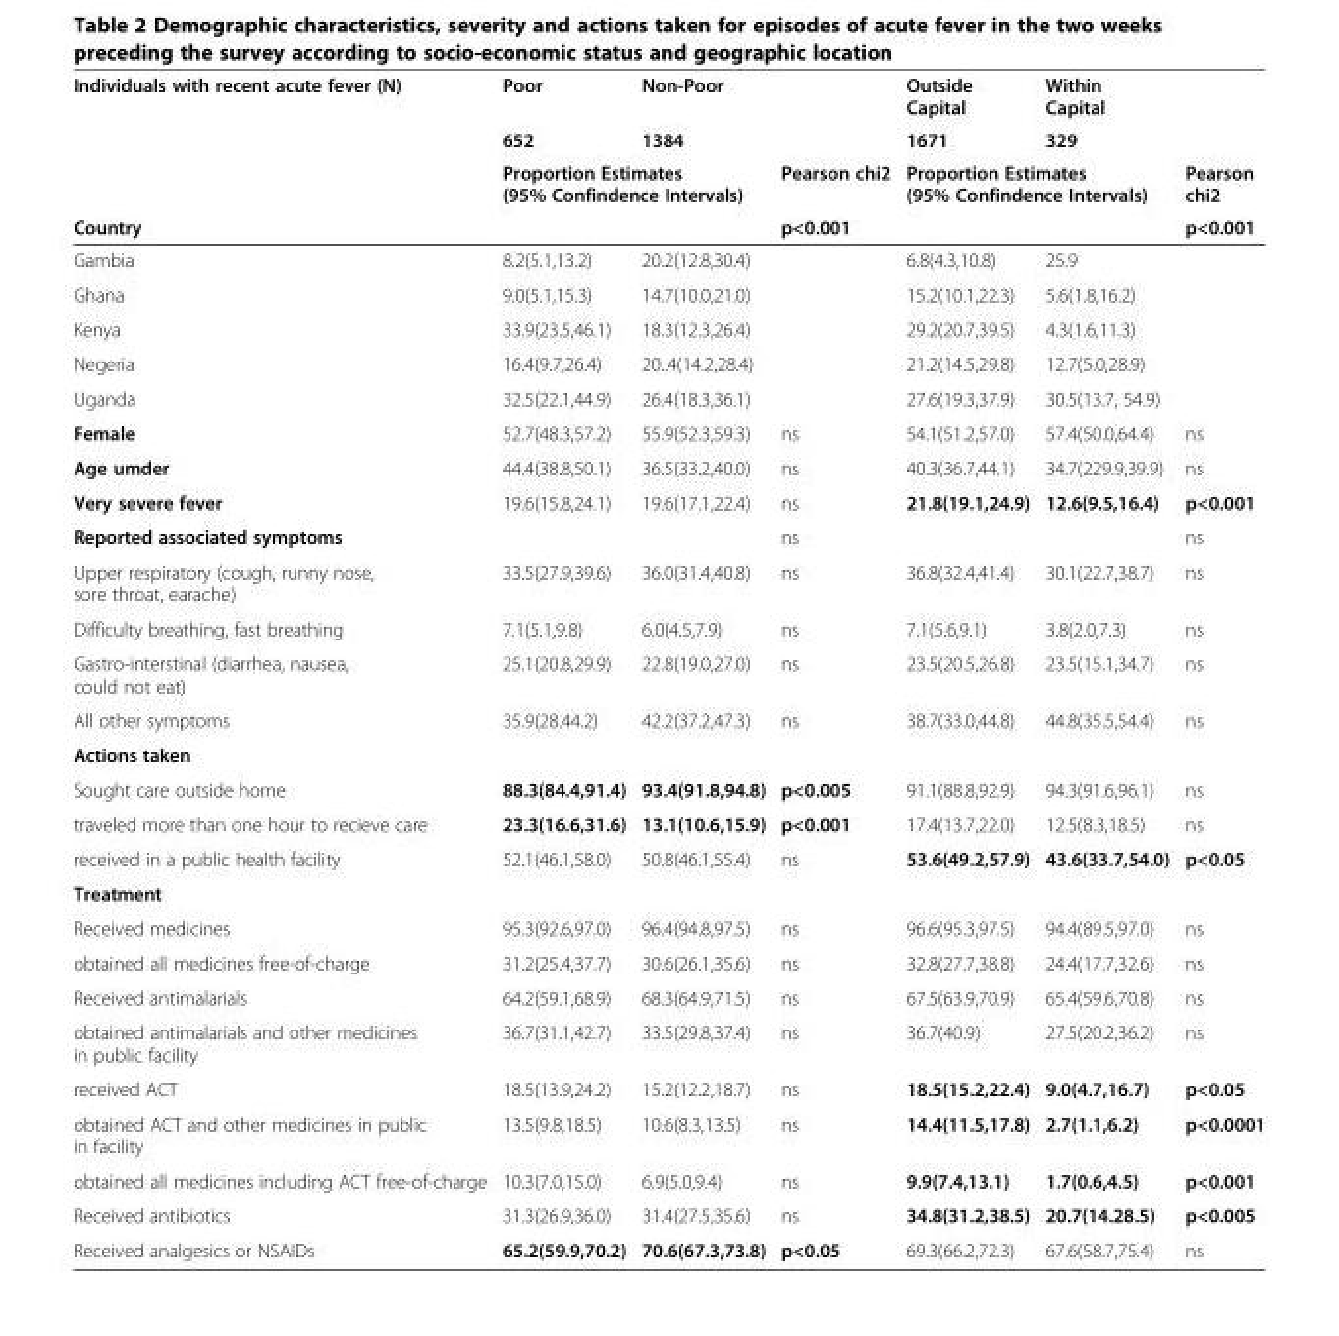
<table><thead><tr><td rowspan="4">Individuals with recent acute fever (N) Country</td><td rowspan="2">Poor 652</td><td rowspan="2">Non-Poor 1384</td><td rowspan="4">Pearson chi2 p&lt;0.001</td><td rowspan="2">Outside Capital 1671</td><td rowspan="2">Within Capital 329</td><td rowspan="4">Pearson chi2 p&lt;0.001</td></tr><tr></tr><tr><td colspan="2">Proportion Estimates (95% Confindence Intervals)</td><td colspan="2">Proportion Estimates (95% Confindence Intervals)</td></tr><tr><td></td><td></td><td></td><td></td></tr></thead><tbody><tr><td>Gambia</td><td>8.2(5.1,13.2)</td><td>20.2(12.8,30.4)</td><td></td><td>6.8(4.3,10.8)</td><td>25.9</td><td></td></tr><tr><td>Ghana</td><td>9.0(5.1,15.3)</td><td>14.7(10.0,21.0)</td><td></td><td>15.2(10.1,22.3)</td><td>5.6(1.8,16.2)</td><td></td></tr><tr><td>Kenya</td><td>33.9(23.5,46.1)</td><td>18.3(12.3,26.4)</td><td></td><td>29.2(20.7,39.5)</td><td>4.3(1.6,11.3)</td><td></td></tr><tr><td>Negeria</td><td>16.4(9.7,26.4)</td><td>20..4(14.2,28.4)</td><td></td><td>21.2(14.5,29.8)</td><td>12.7(5.0,28.9)</td><td></td></tr><tr><td>Uganda</td><td>32.5(22.1,44.9)</td><td>26.4(18.3,36.1)</td><td></td><td>27.6(19.3,37.9)</td><td>30.5(13.7, 54.9)</td><td></td></tr><tr><td>Female</td><td>52.7(48.3,57.2)</td><td>55.9(52.3,59.3)</td><td>ns</td><td>54.1(51.2,57.0)</td><td>57.4(50.0,64.4)</td><td>ns</td></tr><tr><td>Age umder</td><td>44.4(38.8,50.1)</td><td>36.5(33.2,40.0)</td><td>ns</td><td>40.3(36.7,44.1)</td><td>34.7(229.9,39.9)</td><td>ns</td></tr><tr><td>Very severe fever</td><td>19.6(15.8,24.1)</td><td>19.6(17.1,22.4)</td><td>ns</td><td>21.8(19.1,24.9)</td><td>12.6(9.5,16.4)</td><td>p&lt;0.001</td></tr><tr><td>Reported associated symptoms</td><td></td><td></td><td>ns</td><td></td><td></td><td>ns</td></tr><tr><td>Upper respiratory (cough, runny nose, sore throat, earache)</td><td>33.5(27.9,39.6)</td><td>36.0(31.4,40.8)</td><td>ns</td><td>36.8(32.4,41.4)</td><td>30.1(22.7,38.7)</td><td>ns</td></tr><tr><td>Difficulty breathing, fast breathing</td><td>7.1(5.1,9.8)</td><td>6.0(4.5,7.9)</td><td>ns</td><td>7.1(5.6,9.1)</td><td>3.8(2.0,7.3)</td><td>ns</td></tr><tr><td>Gastro-interstinal (diarrhea, nausea, could not eat)</td><td>25.1(20.8,29.9)</td><td>22.8(19.0,27.0)</td><td>ns</td><td>23.5(20.5,26.8)</td><td>23.5(15.1,34.7)</td><td>ns</td></tr><tr><td>All other symptoms</td><td>35.9(28.44.2)</td><td>42.2(37.2,47.3)</td><td>ns</td><td>38.7(33.0,44.8)</td><td>44.8(35.5,54.4)</td><td>ns</td></tr><tr><td colspan="7">Actions taken</td></tr><tr><td>Sought care outside home</td><td>88.3(84.4,91.4)</td><td>93.4(91.8,94.8)</td><td>p&lt;0.005</td><td>91.1(88.8,92.9)</td><td>94.3(91.6,96.1)</td><td>ns</td></tr><tr><td>traveled more than one hour to recieve care</td><td>23.3(16.6,31.6)</td><td>13.1(10.6,15.9)</td><td>p&lt;0.001</td><td>17.4(13.7,22.0)</td><td>12.5(8.3,18.5)</td><td>ns</td></tr><tr><td>received in a public health facility</td><td>52.1(46.1,58.0)</td><td>50.8(46.1,55.4)</td><td>ns</td><td>53.6(49.2,57.9)</td><td>43.6(33.7,54.0)</td><td>p&lt;0.05</td></tr><tr><td colspan="7">Treatment</td></tr><tr><td>Received medicines</td><td>95.3(92.6,97.0)</td><td>96.4(94.8,97.5)</td><td>ns</td><td>96.6(95.3,97.5)</td><td>94.4(89.5,97.0)</td><td>ns</td></tr><tr><td>obtained all medicines free-of-charge</td><td>31.2(25.4,37.7)</td><td>30.6(26.1,35.6)</td><td>ns</td><td>32.8(27.7,38.8)</td><td>24.4(17.7,32.6)</td><td>ns</td></tr><tr><td>Received antimalarials</td><td>64.2(59.1,68.9)</td><td>68.3(64.9,71.5)</td><td>ns</td><td>67.5(63.9,70.9)</td><td>65.4(59.6,70.8)</td><td>ns</td></tr><tr><td>obtained antimalarials and other medicines in public facility</td><td>36.7(31.1,42.7)</td><td>33.5(29.8,37.4)</td><td>ns</td><td>36.7(40.9)</td><td>27.5(20.2,36.2)</td><td>ns</td></tr><tr><td>received ACT</td><td>18.5(13.9,24.2)</td><td>15.2(12.2,18.7)</td><td>ns</td><td>18.5(15.2,22.4)</td><td>9.0(4.7,16.7)</td><td>p&lt;0.05</td></tr><tr><td>obtained ACT and other medicines in public in facility</td><td>13.5(9.8,18.5)</td><td>10.6(8.3,13.5)</td><td>ns</td><td>14.4(11.5,17.8)</td><td>2.7(1.1,6.2)</td><td>p&lt;0.0001</td></tr><tr><td>obtained all medicines including ACT free-of-charge</td><td>10.3(7.0,15.0)</td><td>6.9(5.0,9.4)</td><td>ns</td><td>9.9(7.4,13.1)</td><td>1.7(0.6,4.5)</td><td>p&lt;0.001</td></tr><tr><td>Received antibiotics</td><td>31.3(26.9,36.0)</td><td>31.4(27.5,35.6)</td><td>ns</td><td>34.8(31.2,38.5)</td><td>20.7(14.28.5)</td><td>p&lt;0.005</td></tr><tr><td>Received analgesics or NSAIDs</td><td>65.2(59.9,70.2)</td><td>70.6(67.3,73.8)</td><td>p&lt;0.05</td><td>69.3(66.2,72.3)</td><td>67.6(58.7,75.4)</td><td>ns</td></tr></tbody></table>